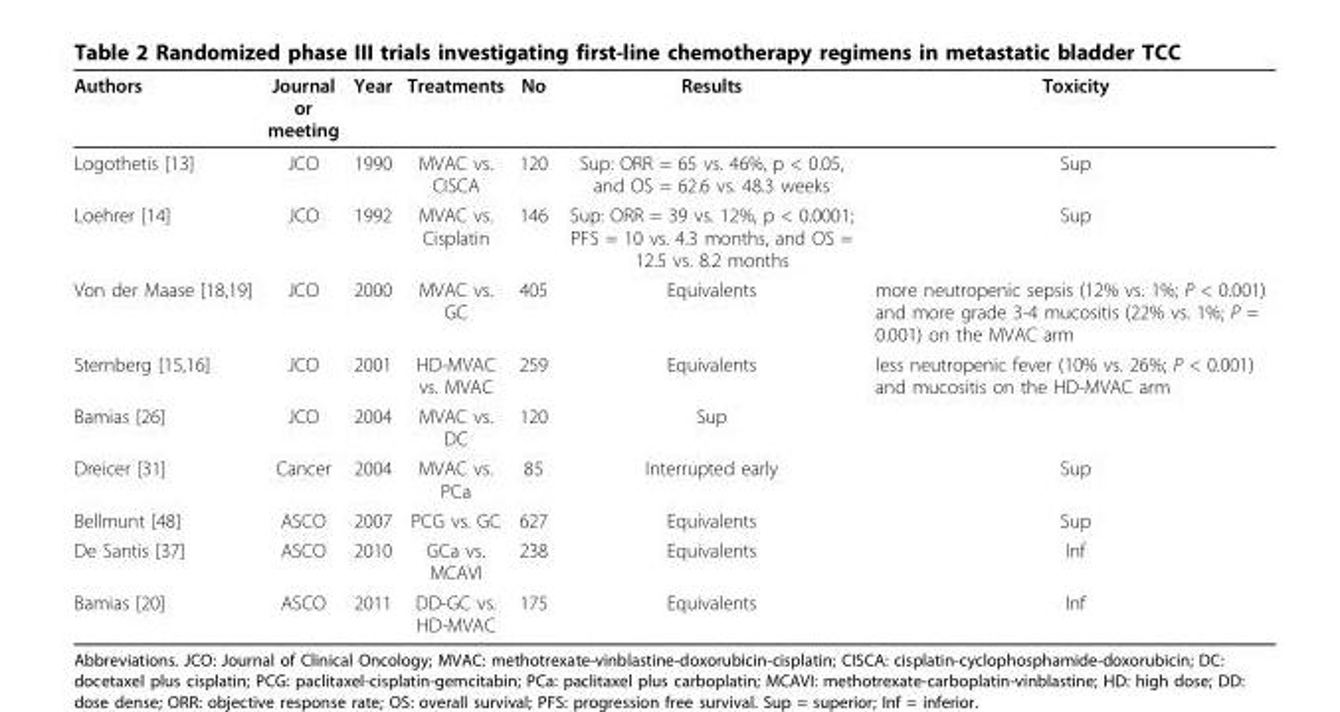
<table><thead><tr><td>Authors</td><td>Journal or meeting</td><td>Year</td><td>Treatments</td><td>No</td><td>Results</td><td>Toxicity</td></tr></thead><tbody><tr><td>Logothetis [13]</td><td>JCO</td><td>1990</td><td>MVAC vs. CISCA</td><td>120</td><td>Sup: ORR = 65 vs. 46%, p &lt; 0.05, and OS = 62.6 vs. 48.3 weeks</td><td>Sup</td></tr><tr><td>Loehrer [14]</td><td>JCO</td><td>1992</td><td>MVAC vs. Cisplatin</td><td>146</td><td>Sup: ORR = 39 vs. 12%, p &lt; 0.0001; PFS = 10 vs. 4.3 months, and OS = 12.5 vs. 8.2 months</td><td>Sup</td></tr><tr><td>Von der Maase [18,19]</td><td>JCO</td><td>2000</td><td>MVAC vs. GC</td><td>405</td><td>Equivalents</td><td>more neutropenic sepsis (12% vs. 1%; P &lt; 0.001) and more grade 3-4 mucositis (22% vs. 1%; P = 0.001) on the MVAC arm</td></tr><tr><td>Sternberg [15,16]</td><td>JCO</td><td>2001</td><td>HD-MVAC vs. MVAC</td><td>259</td><td>Equivalents</td><td>less neutropenic fever (10% vs. 26%; P &lt; 0.001) and mucositis on the HD-MVAC arm</td></tr><tr><td>Bamias [26]</td><td>JCO</td><td>2004</td><td>MVAC vs. DC</td><td>120</td><td>Sup</td><td></td></tr><tr><td>Dreicer [31]</td><td>Cancer</td><td>2004</td><td>MVAC vs. PCa</td><td>85</td><td>Interrupted early</td><td>Sup</td></tr><tr><td>Bellmunt [48]</td><td>ASCO</td><td>2007</td><td>PCG vs. GC</td><td>627</td><td>Equivalents</td><td>Sup</td></tr><tr><td>De Santis [37]</td><td>ASCO</td><td>2010</td><td>GCa vs. MCAVI</td><td>238</td><td>Equivalents</td><td>Inf</td></tr><tr><td>Bamias [20]</td><td>ASCO</td><td>2011</td><td>DD-GC vs. HD-MVAC</td><td>175</td><td>Equivalents</td><td>Inf</td></tr></tbody></table>